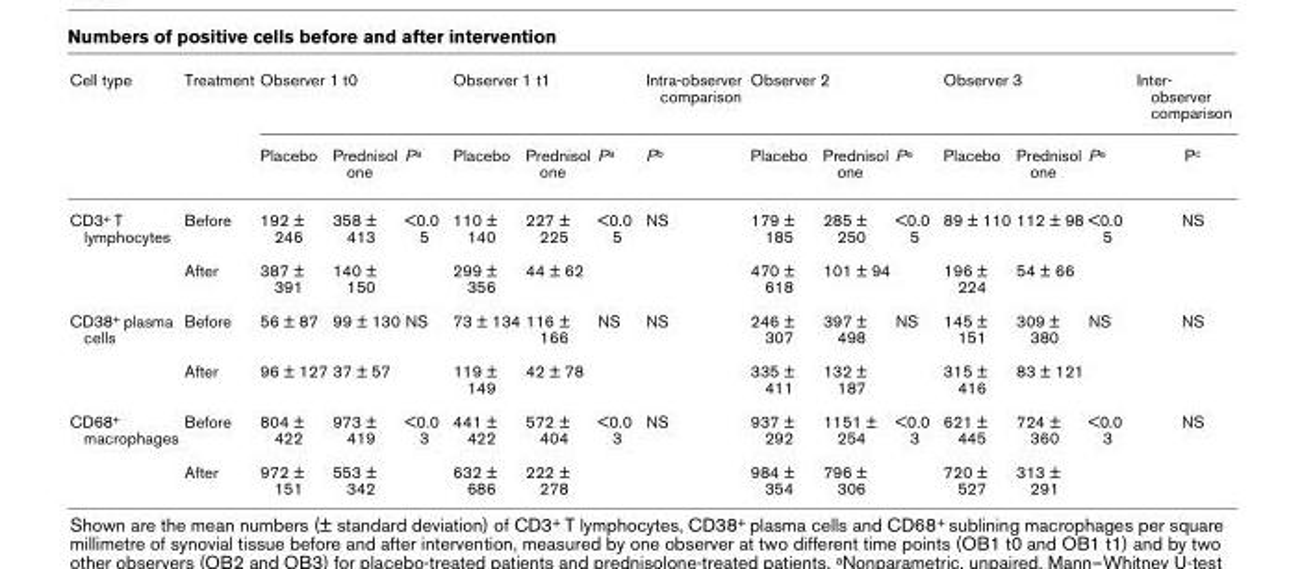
<table><thead><tr><td rowspan="2">Cell type</td><td rowspan="2">Treatment</td><td colspan="3">Observer 1 t0</td><td colspan="3">Observer 1 t1</td><td rowspan="2">Intra-observer comparison Pb</td><td colspan="3">Observer 2</td><td colspan="3">Observer 3</td><td rowspan="2">Inter- observer comparison Pc</td></tr><tr><td>Placebo</td><td>Prednisol one</td><td>Pa</td><td>Placebo</td><td>Prednisol one</td><td>Pa</td><td>Placebo</td><td>Prednisol one</td><td>Pa</td><td>Placebo</td><td>Prednisol one</td><td>Pa</td></tr></thead><tbody><tr><td rowspan="2">CD3+ T lymphocytes</td><td>Before</td><td>192 ± 246</td><td>358 ± 413</td><td>&lt;0.0 5</td><td>110 ± 140</td><td>227 ± 225</td><td>&lt;0.0 5</td><td>NS</td><td>179 ± 185</td><td>285 ± 250</td><td>&lt;0.0 5</td><td>89 ± 110</td><td>112 ± 98</td><td>&lt;0.0 5</td><td>NS</td></tr><tr><td>After</td><td>387 ± 391</td><td>140 ± 150</td><td></td><td>299 ± 356</td><td>44 ± 62</td><td></td><td></td><td>470 ± 618</td><td>101 ± 94</td><td></td><td>196 ± 224</td><td>54 ± 66</td><td></td><td></td></tr><tr><td rowspan="2">CD38+ plasma cells</td><td>Before</td><td>56 ± 87</td><td>99 ± 130</td><td>NS</td><td>73 ± 134</td><td>116 ± 166</td><td>NS</td><td>NS</td><td>246 ± 307</td><td>397 ± 498</td><td>NS</td><td>145 ± 151</td><td>309 ± 380</td><td>NS</td><td>NS</td></tr><tr><td>After</td><td>96 ± 127</td><td>37 ± 57</td><td></td><td>119 ± 149</td><td>42 ± 78</td><td></td><td></td><td>335 ± 411</td><td>132 ± 187</td><td></td><td>315 ± 416</td><td>83 ± 121</td><td></td><td></td></tr><tr><td rowspan="2">CD68+ macrophages</td><td>Before</td><td>804 ± 422</td><td>973 ± 419</td><td>&lt;0.0 3</td><td>441 ± 422</td><td>572 ± 404</td><td>&lt;0.0 3</td><td>NS</td><td>937 ± 292</td><td>1151 ± 254</td><td>&lt;0.0 3</td><td>621 ± 445</td><td>724 ± 360</td><td>&lt;0.0 3</td><td>NS</td></tr><tr><td>After</td><td>972 ± 151</td><td>553 ± 342</td><td></td><td>632 ± 686</td><td>222 ± 278</td><td></td><td></td><td>984 ± 354</td><td>796 ± 306</td><td></td><td>720 ± 527</td><td>313 ± 291</td><td></td><td></td></tr></tbody></table>